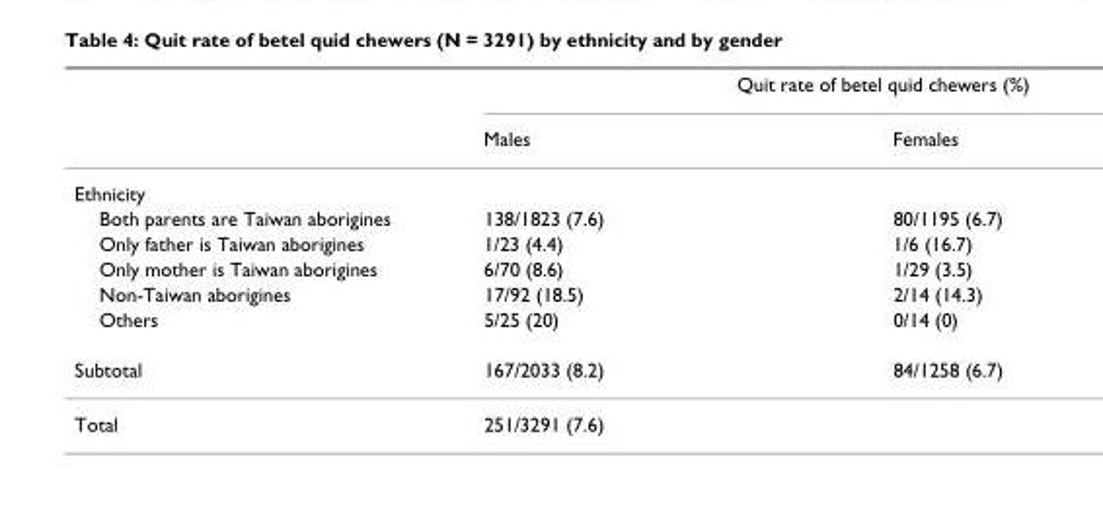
<table><thead><tr><td rowspan="2"></td><td colspan="2">Quit rate of betel quid chewers (%)</td></tr><tr><td>Males</td><td>Females</td></tr></thead><tbody><tr><td colspan="3">Ethnicity</td></tr><tr><td>Both parents are Taiwan aborigines</td><td>138/1823 (7.6)</td><td>80/1195 (6.7)</td></tr><tr><td>Only father is Taiwan aborigines</td><td>1/23 (4.4)</td><td>1/6 (16.7)</td></tr><tr><td>Only mother is Taiwan aborigines</td><td>6/70 (8.6)</td><td>1/29 (3.5)</td></tr><tr><td>Non-Taiwan aborigines</td><td>17/92 (18.5)</td><td>2/14 (14.3)</td></tr><tr><td>Others</td><td>5/25 (20)</td><td>0/14 (0)</td></tr><tr><td>Subtotal</td><td>167/2033 (8.2)</td><td>84/1258 (6.7)</td></tr><tr><td>Total</td><td colspan="2">251/3291 (7.6)</td></tr></tbody></table>